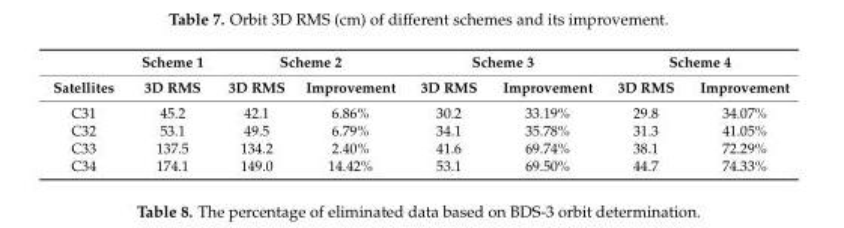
<table><thead><tr><td rowspan="2">Satellites</td><td rowspan="2">Scheme 1 3D RMS</td><td colspan="2">Scheme 2</td><td colspan="2">Scheme 3</td><td colspan="2">Scheme 4</td></tr><tr><td>3D RMS</td><td>Improvement</td><td>3D RMS</td><td>Improvement</td><td>3D RMS</td><td>Improvement</td></tr></thead><tbody><tr><td>C31</td><td>45.2</td><td>42.1</td><td>6.86%</td><td>30.2</td><td>33.19%</td><td>29.8</td><td>34.07%</td></tr><tr><td>C32</td><td>53.1</td><td>49.5</td><td>6.79%</td><td>34.1</td><td>35.78%</td><td>31.3</td><td>41.05%</td></tr><tr><td>C33</td><td>137.5</td><td>134.2</td><td>2.40%</td><td>41.6</td><td>69.74%</td><td>38.1</td><td>72.29%</td></tr><tr><td>C34</td><td>174.1</td><td>149.0</td><td>14.42%</td><td>53.1</td><td>69.50%</td><td>44.7</td><td>74.33%</td></tr></tbody></table>